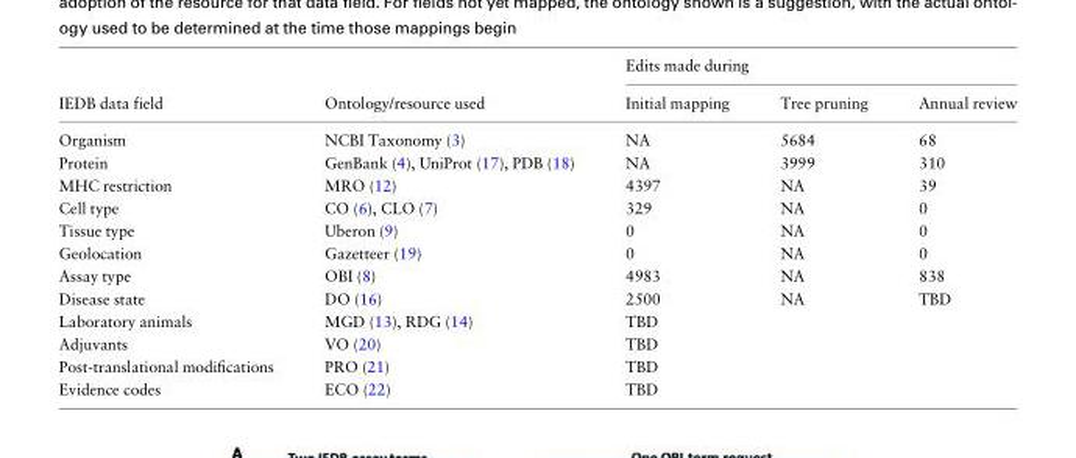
<table><thead><tr><td rowspan="2">IEDB data field</td><td rowspan="2">Ontology/resource used</td><td colspan="3">Edits made during</td></tr><tr><td>Initial mapping</td><td>Tree pruning</td><td>Annual review</td></tr></thead><tbody><tr><td>Organism</td><td>NCBI Taxonomy (3)</td><td>NA</td><td>5684</td><td>68</td></tr><tr><td>Protein</td><td>GenBank (4), UniProt (17), PDB (18)</td><td>NA</td><td>3999</td><td>310</td></tr><tr><td>MHC restriction</td><td>MRO (12)</td><td>4397</td><td>NA</td><td>39</td></tr><tr><td>Cell type</td><td>CO (6), CLO (7)</td><td>329</td><td>NA</td><td>0</td></tr><tr><td>Tissue type</td><td>Uberon (9)</td><td>0</td><td>NA</td><td>0</td></tr><tr><td>Geolocation</td><td>Gazetteer (19)</td><td>0</td><td>NA</td><td>0</td></tr><tr><td>Assay type</td><td>OBI (8)</td><td>4983</td><td>NA</td><td>838</td></tr><tr><td>Disease state</td><td>DO (16)</td><td>2500</td><td>NA</td><td>TBD</td></tr><tr><td>Laboratory animals</td><td>MGD (13), RDG (14)</td><td>TBD</td><td></td><td></td></tr><tr><td>Adjuvants</td><td>VO (20)</td><td>TBD</td><td></td><td></td></tr><tr><td>Post-translational modifications</td><td>PRO (21)</td><td>TBD</td><td></td><td></td></tr><tr><td>Evidence codes</td><td>ECO (22)</td><td>TBD</td><td></td><td></td></tr></tbody></table>